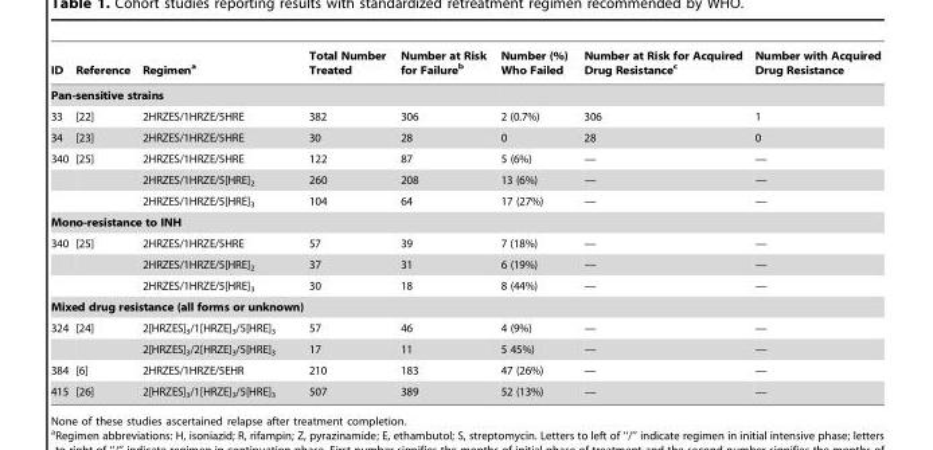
<table><thead><tr><td>ID</td><td>Reference</td><td>Regimen<sup>a</sup></td><td>Total Number Treated</td><td>Number at Risk for Failure<sup>b</sup></td><td>Number (%) Who Failed</td><td>Number at Risk for Acquired Drug Resistance<sup>c</sup></td><td>Number with Acquired Drug Resistance</td></tr></thead><tbody><tr><td colspan="8">Pan-sensitive strains</td></tr><tr><td>33</td><td>[22]</td><td>2HRZES/1HRZE/5HRE</td><td>382</td><td>306</td><td>2 (0.7%)</td><td>306</td><td>1</td></tr><tr><td>34</td><td>[23]</td><td>2HRZES/1HRZE/5HRE</td><td>30</td><td>28</td><td>0</td><td>28</td><td>0</td></tr><tr><td rowspan="3">340</td><td>[25]</td><td>2HRZES/1HRZE/5HRE</td><td>122</td><td>87</td><td>5 (6%)</td><td>—</td><td>—</td></tr><tr><td></td><td>2HRZES/1HRZE/5[HRE]<sub>2</sub></td><td>260</td><td>208</td><td>13 (6%)</td><td>—</td><td>—</td></tr><tr><td></td><td>2HRZES/1HRZE/5[HRE]<sub>3</sub></td><td>104</td><td>64</td><td>17 (27%)</td><td>—</td><td>—</td></tr><tr><td colspan="8">Mono-resistance to INH</td></tr><tr><td rowspan="3">340</td><td>[25]</td><td>2HRZES/1HRZE/5HRE</td><td>57</td><td>39</td><td>7 (18%)</td><td>—</td><td>—</td></tr><tr><td></td><td>2HRZES/1HRZE/5[HRE]<sub>2</sub></td><td>37</td><td>31</td><td>6 (19%)</td><td>—</td><td>—</td></tr><tr><td></td><td>2HRZES/1HRZE/5[HRE]<sub>3</sub></td><td>30</td><td>18</td><td>8 (44%)</td><td>—</td><td>—</td></tr><tr><td colspan="8">Mixed drug resistance (all forms or unknown)</td></tr><tr><td rowspan="2">324</td><td>[24]</td><td>2[HRZES]<sub>3</sub>/1[HRZE]<sub>3</sub>/5[HRE]<sub>3</sub></td><td>57</td><td>46</td><td>4 (9%)</td><td>—</td><td>—</td></tr><tr><td></td><td>2[HRZES]<sub>3</sub>/2[HRZE]<sub>3</sub>/5[HRE]<sub>3</sub></td><td>17</td><td>11</td><td>5 45%)</td><td>—</td><td>—</td></tr><tr><td>384</td><td>[6]</td><td>2HRZES/1HRZE/5EHR</td><td>210</td><td>183</td><td>47 (26%)</td><td>—</td><td>—</td></tr><tr><td>415</td><td>[26]</td><td>2[HRZES]<sub>3</sub>/1[HRZE]<sub>3</sub>/5[HRE]<sub>3</sub></td><td>507</td><td>389</td><td>52 (13%)</td><td>—</td><td>—</td></tr></tbody></table>